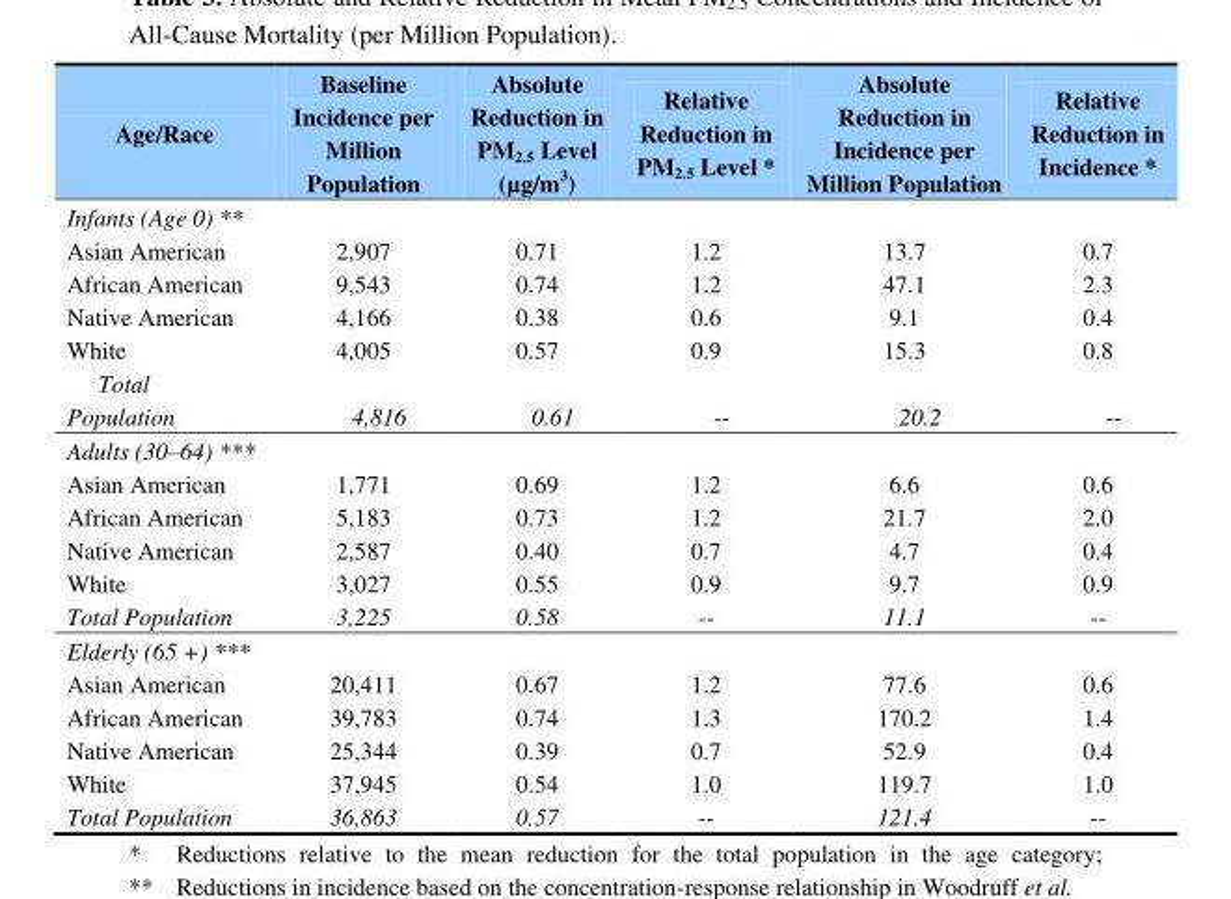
<table><thead><tr><td>Age/Race</td><td>Baseline Incidence per Million Population</td><td>Absolute Reduction in PM<sub>2.5</sub> Level (µg/m<sup>3</sup>)</td><td>Relative Reduction in PM<sub>2.5</sub> Level *</td><td>Absolute Reduction in Incidence per Million Population</td><td>Relative Reduction in Incidence *</td></tr></thead><tbody><tr><td colspan="6">Infants (Age 0) **</td></tr><tr><td>Asian American</td><td>2,907</td><td>0.71</td><td>1.2</td><td>13.7</td><td>0.7</td></tr><tr><td>African American</td><td>9,543</td><td>0.74</td><td>1.2</td><td>47.1</td><td>2.3</td></tr><tr><td>Native American</td><td>4,166</td><td>0.38</td><td>0.6</td><td>9.1</td><td>0.4</td></tr><tr><td>White</td><td>4,005</td><td>0.57</td><td>0.9</td><td>15.3</td><td>0.8</td></tr><tr><td>Total Population</td><td>4,816</td><td>0.61</td><td>--</td><td>20.2</td><td>--</td></tr><tr><td colspan="6">Adults (30–64) ***</td></tr><tr><td>Asian American</td><td>1,771</td><td>0.69</td><td>1.2</td><td>6.6</td><td>0.6</td></tr><tr><td>African American</td><td>5,183</td><td>0.73</td><td>1.2</td><td>21.7</td><td>2.0</td></tr><tr><td>Native American</td><td>2,587</td><td>0.40</td><td>0.7</td><td>4.7</td><td>0.4</td></tr><tr><td>White</td><td>3,027</td><td>0.55</td><td>0.9</td><td>9.7</td><td>0.9</td></tr><tr><td>Total Population</td><td>3,225</td><td>0.58</td><td>--</td><td>11.1</td><td>--</td></tr><tr><td colspan="6">Elderly (65 +) ***</td></tr><tr><td>Asian American</td><td>20,411</td><td>0.67</td><td>1.2</td><td>77.6</td><td>0.6</td></tr><tr><td>African American</td><td>39,783</td><td>0.74</td><td>1.3</td><td>170.2</td><td>1.4</td></tr><tr><td>Native American</td><td>25,344</td><td>0.39</td><td>0.7</td><td>52.9</td><td>0.4</td></tr><tr><td>White</td><td>37,945</td><td>0.54</td><td>1.0</td><td>119.7</td><td>1.0</td></tr><tr><td>Total Population</td><td>36,863</td><td>0.57</td><td>--</td><td>121.4</td><td>--</td></tr></tbody></table>